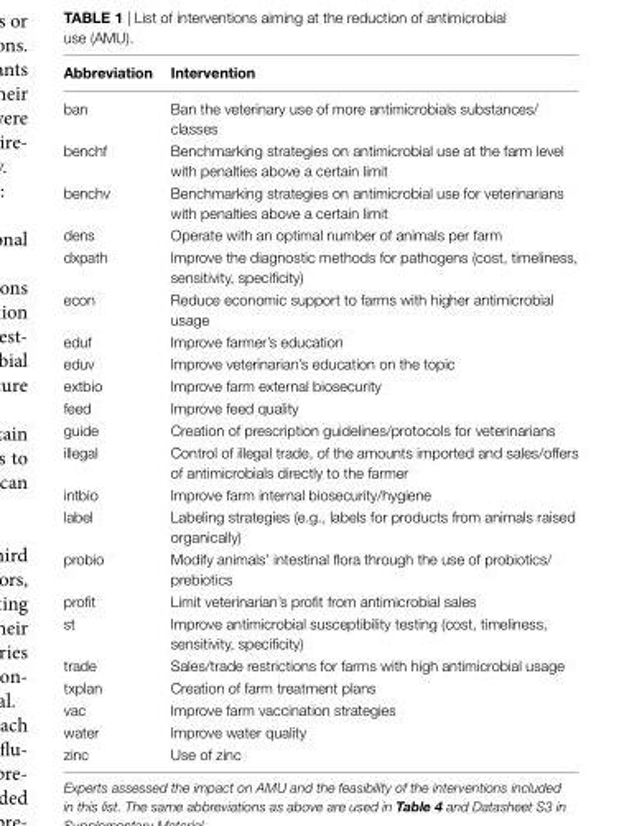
<table><thead><tr><td>abbreviation</td><td>intervention</td></tr></thead><tbody><tr><td>ban</td><td>Ban the veterinary use of more antimicrobials substances/ classes</td></tr><tr><td>benchf</td><td>Benchmarking strategies on antimicrobial use at the farm level with penalties above a certain limit</td></tr><tr><td>benchv</td><td>Benchmarking strategies on antimicrobial use for veterinarians with penalties above a certain limit</td></tr><tr><td>dens</td><td>Operate with an optimal number of animals per farm</td></tr><tr><td>dxpath</td><td>Improve the diagnostic methods for pathogens (cost, timeliness, sensitivity, specificity)</td></tr><tr><td>econ</td><td>Reduce economic support to farms with higher antimicrobial usage</td></tr><tr><td>eduf</td><td>Improve farmer’s education</td></tr><tr><td>eduv</td><td>Improve veterinarian’s education on the topic</td></tr><tr><td>extbio</td><td>Improve farm external biosecurity</td></tr><tr><td>feed</td><td>Improve feed quality</td></tr><tr><td>guide</td><td>Creation of prescription guidelines/protocols for veterinarians</td></tr><tr><td>illegal</td><td>Control of illegal trade, of the amounts imported and sales/offers of antimicrobials directly to the farmer</td></tr><tr><td>intbio</td><td>Improve farm internal biosecurity/hygiene</td></tr><tr><td>label</td><td>Labeling strategies (e.g., labels for products from animals raised organically)</td></tr><tr><td>probio</td><td>Modify animals’ intestinal flora through the use of probiotics/ prebiotics</td></tr><tr><td>profit</td><td>Limit veterinarian’s profit from antimicrobial sales</td></tr><tr><td>st</td><td>Improve antimicrobial susceptibility testing (cost, timeliness, sensitivity, specificity)</td></tr><tr><td>trade</td><td>Sales/trade restrictions for farms with high antimicrobial usage</td></tr><tr><td>txplan</td><td>Creation of farm treatment plans</td></tr><tr><td>vac</td><td>Improve farm vaccination strategies</td></tr><tr><td>water</td><td>Improve water quality</td></tr><tr><td>zinc</td><td>Use of zinc</td></tr></tbody></table>